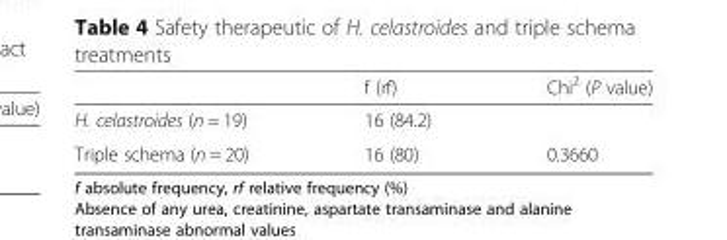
<table><thead><tr><td></td><td>f (rf)</td><td>Chi<sup>2</sup> (P value)</td></tr></thead><tbody><tr><td>H. celastroides (n = 19)</td><td>16 (84.2)</td><td></td></tr><tr><td>Triple schema (n = 20)</td><td>16 (80)</td><td>0.3660</td></tr></tbody></table>